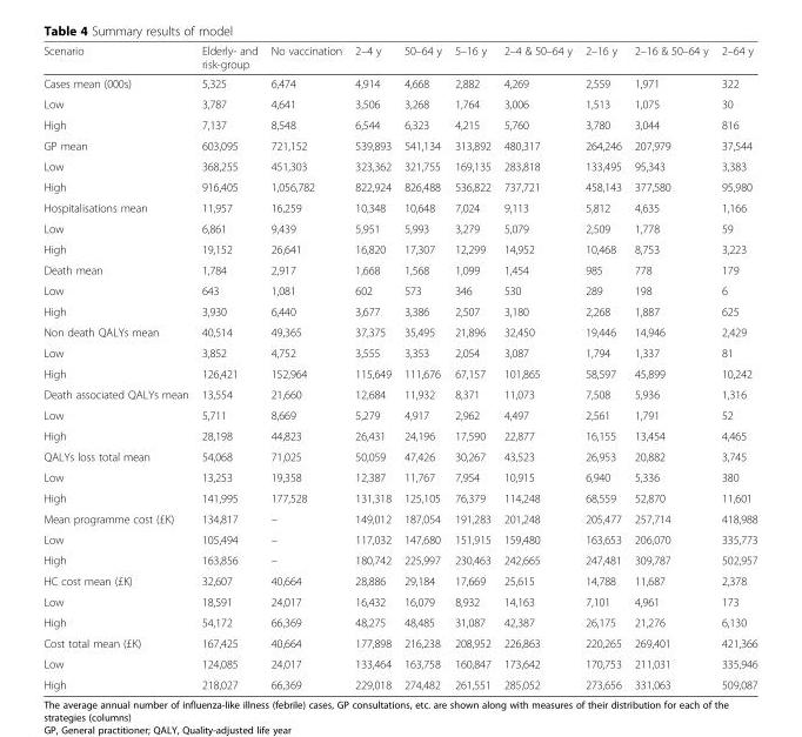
<table><thead><tr><td>Scenario</td><td>Elderly- and risk-group</td><td>No vaccination</td><td>2–4 y</td><td>50–64 y</td><td>5–16 y</td><td>2–4 &amp; 50–64 y</td><td>2–16 y</td><td>2–16 &amp; 50–64 y</td><td>2–64 y</td></tr></thead><tbody><tr><td>Cases mean (000s)</td><td>5,325</td><td>6,474</td><td>4,914</td><td>4,668</td><td>2,882</td><td>4,269</td><td>2,559</td><td>1,971</td><td>322</td></tr><tr><td>Low</td><td>3,787</td><td>4,641</td><td>3,506</td><td>3,268</td><td>1,764</td><td>3,006</td><td>1,513</td><td>1,075</td><td>30</td></tr><tr><td>High</td><td>7,137</td><td>8,548</td><td>6,544</td><td>6,323</td><td>4,215</td><td>5,760</td><td>3,780</td><td>3,044</td><td>816</td></tr><tr><td>GP mean</td><td>603,095</td><td>721,152</td><td>539,893</td><td>541,134</td><td>313,892</td><td>480,317</td><td>264,246</td><td>207,979</td><td>37,544</td></tr><tr><td>Low</td><td>368,255</td><td>451,303</td><td>323,362</td><td>321,755</td><td>169,135</td><td>283,818</td><td>133,495</td><td>95,343</td><td>3,383</td></tr><tr><td>High</td><td>916,405</td><td>1,056,782</td><td>822,924</td><td>826,488</td><td>536,822</td><td>737,721</td><td>458,143</td><td>377,580</td><td>95,980</td></tr><tr><td>Hospitalisations mean</td><td>11,957</td><td>16,259</td><td>10,348</td><td>10,648</td><td>7,024</td><td>9,113</td><td>5,812</td><td>4,635</td><td>1,166</td></tr><tr><td>Low</td><td>6,861</td><td>9,439</td><td>5,951</td><td>5,993</td><td>3,279</td><td>5,079</td><td>2,509</td><td>1,778</td><td>59</td></tr><tr><td>High</td><td>19,152</td><td>26,641</td><td>16,820</td><td>17,307</td><td>12,299</td><td>14,952</td><td>10,468</td><td>8,753</td><td>3,223</td></tr><tr><td>Death mean</td><td>1,784</td><td>2,917</td><td>1,668</td><td>1,568</td><td>1,099</td><td>1,454</td><td>985</td><td>778</td><td>179</td></tr><tr><td>Low</td><td>643</td><td>1,081</td><td>602</td><td>573</td><td>346</td><td>530</td><td>289</td><td>198</td><td>6</td></tr><tr><td>High</td><td>3,930</td><td>6,440</td><td>3,677</td><td>3,386</td><td>2,507</td><td>3,180</td><td>2,268</td><td>1,887</td><td>625</td></tr><tr><td>Non death QALYs mean</td><td>40,514</td><td>49,365</td><td>37,375</td><td>35,495</td><td>21,896</td><td>32,450</td><td>19,446</td><td>14,946</td><td>2,429</td></tr><tr><td>Low</td><td>3,852</td><td>4,752</td><td>3,555</td><td>3,353</td><td>2,054</td><td>3,087</td><td>1,794</td><td>1,337</td><td>81</td></tr><tr><td>High</td><td>126,421</td><td>152,964</td><td>115,649</td><td>111,676</td><td>67,157</td><td>101,865</td><td>58,597</td><td>45,899</td><td>10,242</td></tr><tr><td>Death associated QALYs mean</td><td>13,554</td><td>21,660</td><td>12,684</td><td>11,932</td><td>8,371</td><td>11,073</td><td>7,508</td><td>5,936</td><td>1,316</td></tr><tr><td>Low</td><td>5,711</td><td>8,669</td><td>5,279</td><td>4,917</td><td>2,962</td><td>4,497</td><td>2,561</td><td>1,791</td><td>52</td></tr><tr><td>High</td><td>28,198</td><td>44,823</td><td>26,431</td><td>24,196</td><td>17,590</td><td>22,877</td><td>16,155</td><td>13,454</td><td>4,465</td></tr><tr><td>QALYs loss total mean</td><td>54,068</td><td>71,025</td><td>50,059</td><td>47,426</td><td>30,267</td><td>43,523</td><td>26,953</td><td>20,882</td><td>3,745</td></tr><tr><td>Low</td><td>13,253</td><td>19,358</td><td>12,387</td><td>11,767</td><td>7,954</td><td>10,915</td><td>6,940</td><td>5,336</td><td>380</td></tr><tr><td>High</td><td>141,995</td><td>177,528</td><td>131,318</td><td>125,105</td><td>76,379</td><td>114,248</td><td>68,559</td><td>52,870</td><td>11,601</td></tr><tr><td>Mean programme cost (£K)</td><td>134,817</td><td>–</td><td>149,012</td><td>187,054</td><td>191,283</td><td>201,248</td><td>205,477</td><td>257,714</td><td>418,988</td></tr><tr><td>Low</td><td>105,494</td><td>–</td><td>117,032</td><td>147,680</td><td>151,915</td><td>159,480</td><td>163,653</td><td>206,070</td><td>335,773</td></tr><tr><td>High</td><td>163,856</td><td>–</td><td>180,742</td><td>225,997</td><td>230,463</td><td>242,665</td><td>247,481</td><td>309,787</td><td>502,957</td></tr><tr><td>HC cost mean (£K)</td><td>32,607</td><td>40,664</td><td>28,886</td><td>29,184</td><td>17,669</td><td>25,615</td><td>14,788</td><td>11,687</td><td>2,378</td></tr><tr><td>Low</td><td>18,591</td><td>24,017</td><td>16,432</td><td>16,079</td><td>8,932</td><td>14,163</td><td>7,101</td><td>4,961</td><td>173</td></tr><tr><td>High</td><td>54,172</td><td>66,369</td><td>48,275</td><td>48,485</td><td>31,087</td><td>42,387</td><td>26,175</td><td>21,276</td><td>6,130</td></tr><tr><td>Cost total mean (£K)</td><td>167,425</td><td>40,664</td><td>177,898</td><td>216,238</td><td>208,952</td><td>226,863</td><td>220,265</td><td>269,401</td><td>421,366</td></tr><tr><td>Low</td><td>124,085</td><td>24,017</td><td>133,464</td><td>163,758</td><td>160,847</td><td>173,642</td><td>170,753</td><td>211,031</td><td>335,946</td></tr><tr><td>High</td><td>218,027</td><td>66,369</td><td>229,018</td><td>274,482</td><td>261,551</td><td>285,052</td><td>273,656</td><td>331,063</td><td>509,087</td></tr></tbody></table>